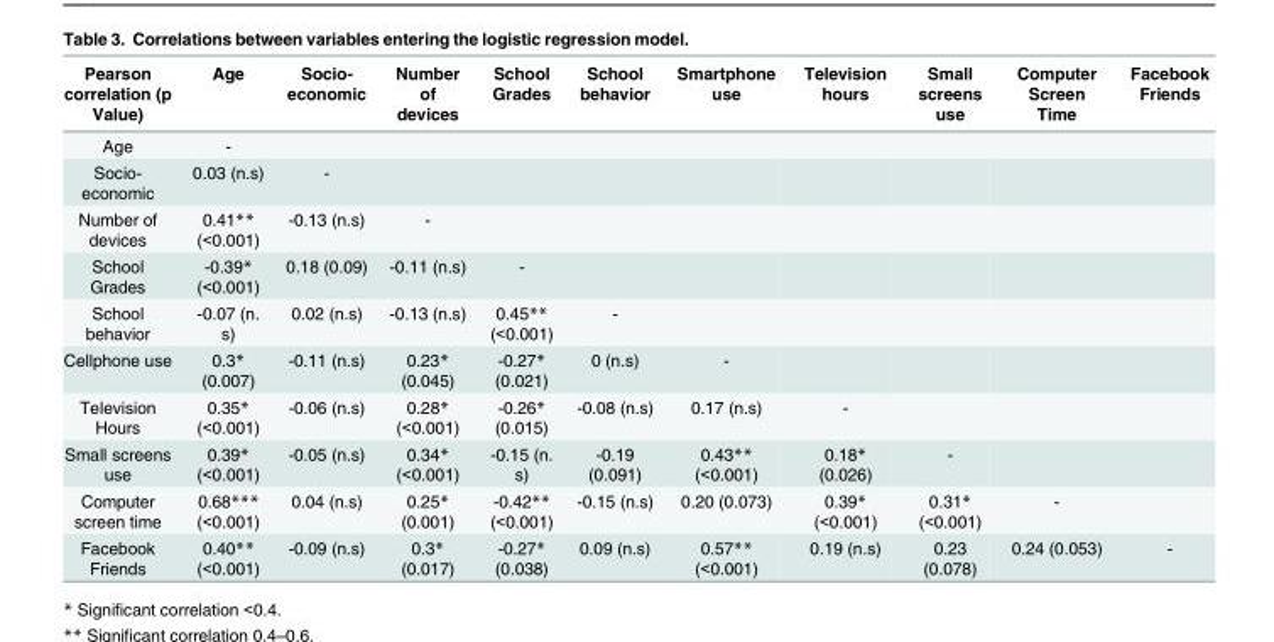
<table><thead><tr><td>Pearson correlation (p Value)</td><td>Age</td><td>Socio- economic</td><td>Number of devices</td><td>School Grades</td><td>School behavior</td><td>Smartphone use</td><td>Television hours</td><td>Small screens use</td><td>Computer Screen Time</td><td>Facebook Friends</td></tr></thead><tbody><tr><td>Age</td><td>-</td><td></td><td></td><td></td><td></td><td></td><td></td><td></td><td></td><td></td></tr><tr><td>Socio- economic</td><td>0.03 (n.s)</td><td>-</td><td></td><td></td><td></td><td></td><td></td><td></td><td></td><td></td></tr><tr><td>Number of devices</td><td>0.41** (&lt;0.001)</td><td>-0.13 (n.s)</td><td>-</td><td></td><td></td><td></td><td></td><td></td><td></td><td></td></tr><tr><td>School Grades</td><td>-0.39* (&lt;0.001)</td><td>0.18 (0.09)</td><td>-0.11 (n.s)</td><td>-</td><td></td><td></td><td></td><td></td><td></td><td></td></tr><tr><td>School behavior</td><td>-0.07 (n. s)</td><td>0.02 (n.s)</td><td>-0.13 (n.s)</td><td>0.45** (&lt;0.001)</td><td>-</td><td></td><td></td><td></td><td></td><td></td></tr><tr><td>Cellphone use</td><td>0.3* (0.007)</td><td>-0.11 (n.s)</td><td>0.23* (0.045)</td><td>-0.27* (0.021)</td><td>0 (n.s)</td><td>-</td><td></td><td></td><td></td><td></td></tr><tr><td>Television Hours</td><td>0.35* (&lt;0.001)</td><td>-0.06 (n.s)</td><td>0.28* (&lt;0.001)</td><td>-0.26* (0.015)</td><td>-0.08 (n.s)</td><td>0.17 (n.s)</td><td>-</td><td></td><td></td><td></td></tr><tr><td>Small screens use</td><td>0.39* (&lt;0.001)</td><td>-0.05 (n.s)</td><td>0.34* (&lt;0.001)</td><td>-0.15 (n. s)</td><td>-0.19 (0.091)</td><td>0.43** (&lt;0.001)</td><td>0.18* (0.026)</td><td>-</td><td></td><td></td></tr><tr><td>Computer screen time</td><td>0.68*** (&lt;0.001)</td><td>0.04 (n.s)</td><td>0.25* (0.001)</td><td>-0.42** (&lt;0.001)</td><td>-0.15 (n.s)</td><td>0.20 (0.073)</td><td>0.39* (&lt;0.001)</td><td>0.31* (&lt;0.001)</td><td>-</td><td></td></tr><tr><td>Facebook Friends</td><td>0.40** (&lt;0.001)</td><td>-0.09 (n.s)</td><td>0.3* (0.017)</td><td>-0.27* (0.038)</td><td>0.09 (n.s)</td><td>0.57** (&lt;0.001)</td><td>0.19 (n.s)</td><td>0.23 (0.078)</td><td>0.24 (0.053)</td><td>-</td></tr></tbody></table>